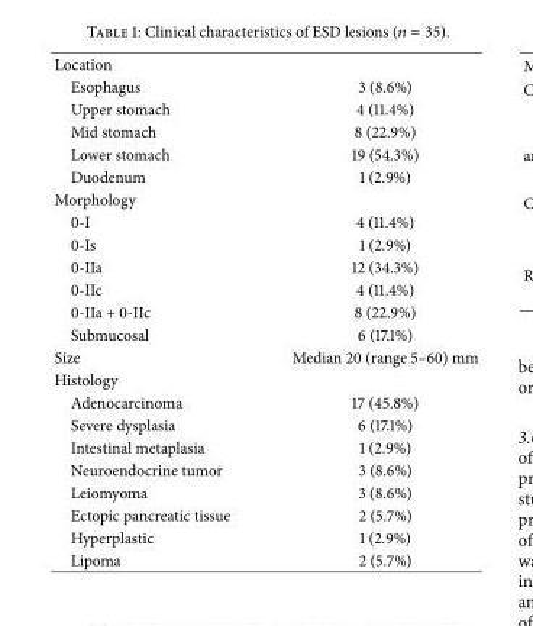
<table><tbody><tr><td colspan="2">Location</td></tr><tr><td>Esophagus</td><td>3 (8.6%)</td></tr><tr><td>Upper stomach</td><td>4 (11.4%)</td></tr><tr><td>Mid stomach</td><td>8 (22.9%)</td></tr><tr><td>Lower stomach</td><td>19 (54.3%)</td></tr><tr><td>Duodenum</td><td>1 (2.9%)</td></tr><tr><td colspan="2">Morphology</td></tr><tr><td>0-I</td><td>4 (11.4%)</td></tr><tr><td>0-Is</td><td>1 (2.9%)</td></tr><tr><td>0-IIa</td><td>12 (34.3%)</td></tr><tr><td>0-IIc</td><td>4 (11.4%)</td></tr><tr><td>0-IIa + 0-IIc</td><td>8 (22.9%)</td></tr><tr><td>Submucosal</td><td>6 (17.1%)</td></tr><tr><td>Size</td><td>Median 20 (range 5–60) mm</td></tr><tr><td colspan="2">Histology</td></tr><tr><td>Adenocarcinoma</td><td>17 (45.8%)</td></tr><tr><td>Severe dysplasia</td><td>6 (17.1%)</td></tr><tr><td>Intestinal metaplasia</td><td>1 (2.9%)</td></tr><tr><td>Neuroendocrine tumor</td><td>3 (8.6%)</td></tr><tr><td>Leiomyoma</td><td>3 (8.6%)</td></tr><tr><td>Ectopic pancreatic tissue</td><td>2 (5.7%)</td></tr><tr><td>Hyperplastic</td><td>1 (2.9%)</td></tr><tr><td>Lipoma</td><td>2 (5.7%)</td></tr></tbody></table>